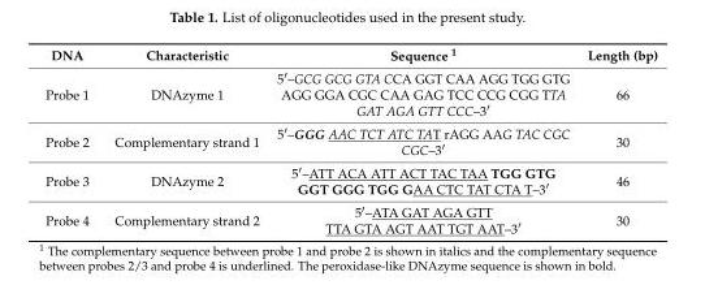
<table><thead><tr><td>DNA</td><td>Characteristic</td><td>Sequence <sup>1</sup></td><td>Length (bp)</td></tr></thead><tbody><tr><td>Probe 1</td><td>DNAzyme 1</td><td>5′–GCG GCG GTA CCA GGT CAA AGG TGG GTG AGG GGA CGC CAA GAG TCC CCG CGG TTA GAT AGA GTT CCC–3′</td><td>66</td></tr><tr><td>Probe 2</td><td>Complementary strand 1</td><td>5′–GGG AAC TCT ATC TAT rAGG AAG TAC CGC CGC–3′</td><td>30</td></tr><tr><td>Probe 3</td><td>DNAzyme 2</td><td>5′–ATT ACA ATT ACT TAC TAA TGG GTG GGT GGG TGG GAA CTC TAT CTA T–3′</td><td>46</td></tr><tr><td>Probe 4</td><td>Complementary strand 2</td><td>5′–ATA GAT AGA GTT TTA GTA AGT AAT TGT AAT–3′</td><td>30</td></tr></tbody></table>